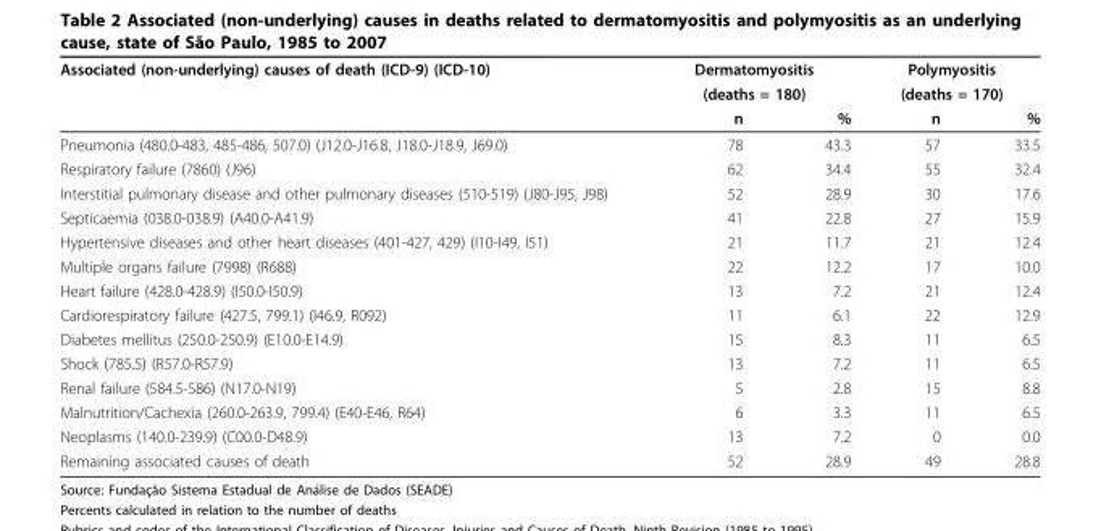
<table><thead><tr><td rowspan="3">Associated (non-underlying) causes of death (ICD-9) (ICD-10)</td><td rowspan="2" colspan="2">Dermatomyositis (deaths = 180)</td><td rowspan="2" colspan="2">Polymyositis (deaths = 170)</td></tr><tr></tr><tr><td>n</td><td>%</td><td>n</td><td>%</td></tr></thead><tbody><tr><td>Pneumonia (480.0-483, 485-486, 507.0) (J12.0-J16.8, J18.0-J18.9, J69.0)</td><td>78</td><td>43.3</td><td>57</td><td>33.5</td></tr><tr><td>Respiratory failure (7860) (J96)</td><td>62</td><td>34.4</td><td>55</td><td>32.4</td></tr><tr><td>Interstitial pulmonary disease and other pulmonary diseases (510-519) (J80-J95, J98)</td><td>52</td><td>28.9</td><td>30</td><td>17.6</td></tr><tr><td>Septicaemia (038.0-038.9) (A40.0-A41.9)</td><td>41</td><td>22.8</td><td>27</td><td>15.9</td></tr><tr><td>Hypertensive diseases and other heart diseases (401-427, 429) (I10-I49, I51)</td><td>21</td><td>11.7</td><td>21</td><td>12.4</td></tr><tr><td>Multiple organs failure (7998) (R688)</td><td>22</td><td>12.2</td><td>17</td><td>10.0</td></tr><tr><td>Heart failure (428.0-428.9) (I50.0-I50.9)</td><td>13</td><td>7.2</td><td>21</td><td>12.4</td></tr><tr><td>Cardiorespiratory failure (427.5, 799.1) (I46.9, R092)</td><td>11</td><td>6.1</td><td>22</td><td>12.9</td></tr><tr><td>Diabetes mellitus (250.0-250.9) (E10.0-E14.9)</td><td>15</td><td>8.3</td><td>11</td><td>6.5</td></tr><tr><td>Shock (785.5) (R57.0-R57.9)</td><td>13</td><td>7.2</td><td>11</td><td>6.5</td></tr><tr><td>Renal failure (584.5-586) (N17.0-N19)</td><td>5</td><td>2.8</td><td>15</td><td>8.8</td></tr><tr><td>Malnutrition/Cachexia (260.0-263.9, 799.4) (E40-E46, R64)</td><td>6</td><td>3.3</td><td>11</td><td>6.5</td></tr><tr><td>Neoplasms (140.0-239.9) (C00.0-D48.9)</td><td>13</td><td>7.2</td><td>0</td><td>0.0</td></tr><tr><td>Remaining associated causes of death</td><td>52</td><td>28.9</td><td>49</td><td>28.8</td></tr></tbody></table>